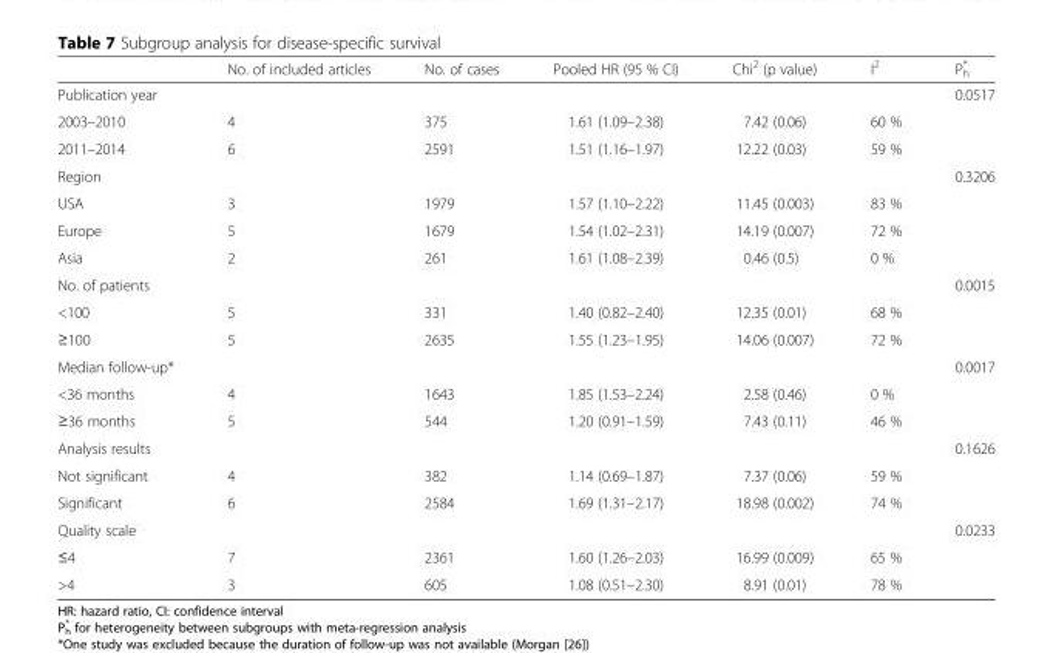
<table><thead><tr><td></td><td>No. of included articles</td><td>No. of cases</td><td>Pooled HR (95 % CI)</td><td>Chi<sup>2</sup> (p value)</td><td>I<sup>2</sup></td><td>P<sub>h</sub> *</td></tr></thead><tbody><tr><td>Publication year</td><td></td><td></td><td></td><td></td><td></td><td>0.0517</td></tr><tr><td>2003–2010</td><td>4</td><td>375</td><td>1.61 (1.09–2.38)</td><td>7.42 (0.06)</td><td>60 %</td><td></td></tr><tr><td>2011–2014</td><td>6</td><td>2591</td><td>1.51 (1.16–1.97)</td><td>12.22 (0.03)</td><td>59 %</td><td></td></tr><tr><td>Region</td><td></td><td></td><td></td><td></td><td></td><td>0.3206</td></tr><tr><td>USA</td><td>3</td><td>1979</td><td>1.57 (1.10–2.22)</td><td>11.45 (0.003)</td><td>83 %</td><td></td></tr><tr><td>Europe</td><td>5</td><td>1679</td><td>1.54 (1.02–2.31)</td><td>14.19 (0.007)</td><td>72 %</td><td></td></tr><tr><td>Asia</td><td>2</td><td>261</td><td>1.61 (1.08–2.39)</td><td>0.46 (0.5)</td><td>0 %</td><td></td></tr><tr><td>No. of patients</td><td></td><td></td><td></td><td></td><td></td><td>0.0015</td></tr><tr><td>&lt;100</td><td>5</td><td>331</td><td>1.40 (0.82–2.40)</td><td>12.35 (0.01)</td><td>68 %</td><td></td></tr><tr><td>≥100</td><td>5</td><td>2635</td><td>1.55 (1.23–1.95)</td><td>14.06 (0.007)</td><td>72 %</td><td></td></tr><tr><td>Median follow-up*</td><td></td><td></td><td></td><td></td><td></td><td>0.0017</td></tr><tr><td>&lt;36 months</td><td>4</td><td>1643</td><td>1.85 (1.53–2.24)</td><td>2.58 (0.46)</td><td>0 %</td><td></td></tr><tr><td>≥36 months</td><td>5</td><td>544</td><td>1.20 (0.91–1.59)</td><td>7.43 (0.11)</td><td>46 %</td><td></td></tr><tr><td>Analysis results</td><td></td><td></td><td></td><td></td><td></td><td>0.1626</td></tr><tr><td>Not significant</td><td>4</td><td>382</td><td>1.14 (0.69–1.87)</td><td>7.37 (0.06)</td><td>59 %</td><td></td></tr><tr><td>Significant</td><td>6</td><td>2584</td><td>1.69 (1.31–2.17)</td><td>18.98 (0.002)</td><td>74 %</td><td></td></tr><tr><td>Quality scale</td><td></td><td></td><td></td><td></td><td></td><td>0.0233</td></tr><tr><td>≤4</td><td>7</td><td>2361</td><td>1.60 (1.26–2.03)</td><td>16.99 (0.009)</td><td>65 %</td><td></td></tr><tr><td>&gt;4</td><td>3</td><td>605</td><td>1.08 (0.51–2.30)</td><td>8.91 (0.01)</td><td>78 %</td><td></td></tr></tbody></table>